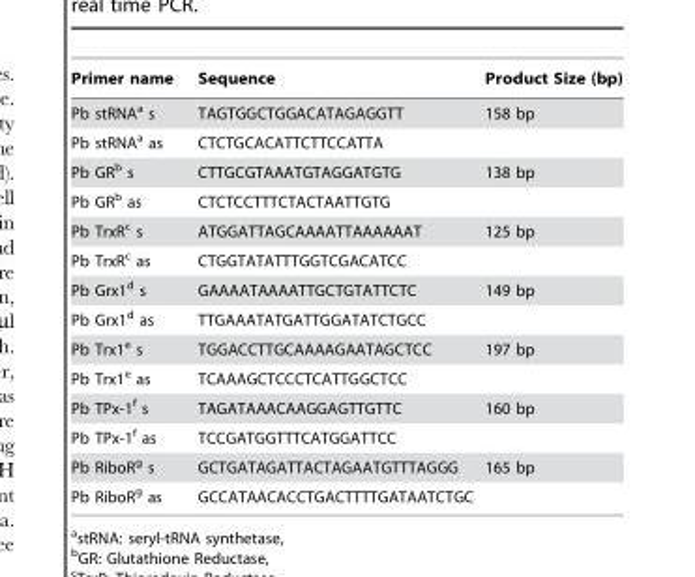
<table><thead><tr><td>Primer name</td><td>Sequence</td><td>Product Size (bp)</td></tr></thead><tbody><tr><td>Pb stRNA<sup>a</sup> s</td><td>TAGTGGCTGGACATAGAGGTT</td><td>158 bp</td></tr><tr><td>Pb stRNA<sup>a</sup> as</td><td>CTCTGCACATTCTTCCATTA</td><td></td></tr><tr><td>Pb GR<sup>b</sup> s</td><td>CTTGCGTAAATGTAGGATGTG</td><td>138 bp</td></tr><tr><td>Pb GR<sup>b</sup> as</td><td>CTCTCCTTTCTACTAATTGTG</td><td></td></tr><tr><td>Pb TrxR<sup>c</sup> s</td><td>ATGGATTAGCAAAATTAAAAAAT</td><td>125 bp</td></tr><tr><td>Pb TrxR<sup>c</sup> as</td><td>CTGGTATATTTGGTCGACATCC</td><td></td></tr><tr><td>Pb Grx1<sup>d</sup> s</td><td>GAAAATAAAATTGCTGTATTCTC</td><td>149 bp</td></tr><tr><td>Pb Grx1<sup>d</sup> as</td><td>TTGAAATATGATTGGATATCTGCC</td><td></td></tr><tr><td>Pb Trx1<sup>e</sup> s</td><td>TGGACCTTGCAAAAGAATAGCTCC</td><td>197 bp</td></tr><tr><td>Pb Trx1<sup>e</sup> as</td><td>TCAAAGCTCCCTCATTGGCTCC</td><td></td></tr><tr><td>Pb TPx-1<sup>f</sup> s</td><td>TAGATAAACAAGGAGTTGTTC</td><td>160 bp</td></tr><tr><td>Pb TPx-1<sup>f</sup> as</td><td>TCCGATGGTTTCATGGATTCC</td><td></td></tr><tr><td>Pb RiboR<sup>g</sup> s</td><td>GCTGATAGATTACTAGAATGTTTAGGG</td><td>165 bp</td></tr><tr><td>Pb RiboR<sup>g</sup> as</td><td>GCCATAACACCTGACTTTTGATAATCTGC</td><td></td></tr></tbody></table>